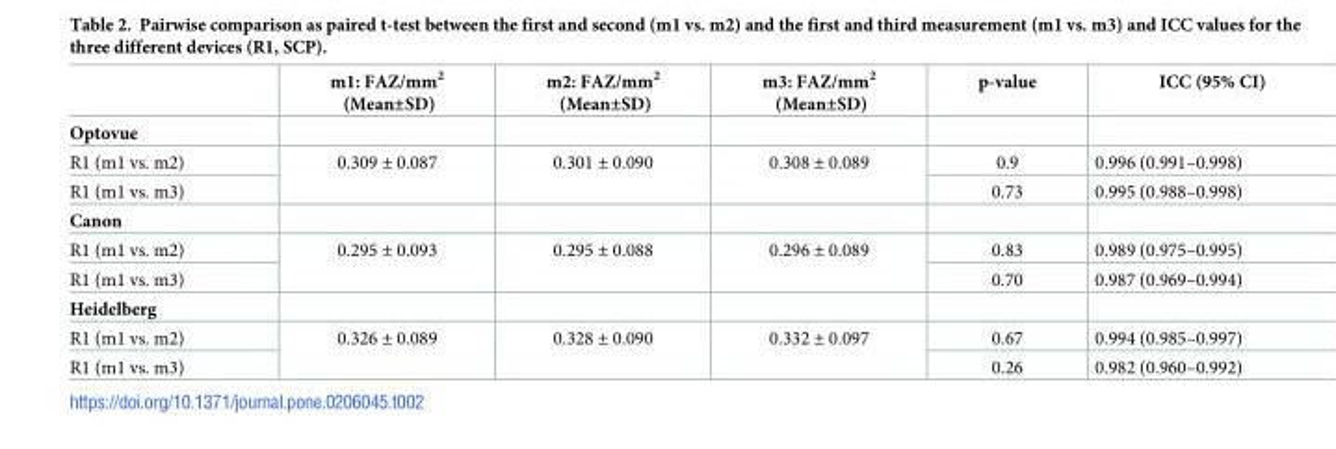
<table><thead><tr><td></td><td>m1: FAZ/mm<sup>2</sup> (Mean±SD)</td><td>m2: FAZ/mm<sup>2</sup> (Mean±SD)</td><td>m3: FAZ/mm<sup>2</sup> (Mean±SD)</td><td>p-value</td><td>ICC (95% CI)</td></tr></thead><tbody><tr><td colspan="6">Optovue</td></tr><tr><td>R1 (m1 vs. m2)</td><td rowspan="2">0.309 ± 0.087</td><td rowspan="2">0.301 ± 0.090</td><td rowspan="2">0.308 ± 0.089</td><td>0.9</td><td>0.996 (0.991–0.998)</td></tr><tr><td>R1 (m1 vs. m3)</td><td>0.73</td><td>0.995 (0.988–0.998)</td></tr><tr><td colspan="6">Canon</td></tr><tr><td>R1 (m1 vs. m2)</td><td rowspan="2">0.295 ± 0.093</td><td rowspan="2">0.295 ± 0.088</td><td rowspan="2">0.296 ± 0.089</td><td>0.83</td><td>0.989 (0.975–0.995)</td></tr><tr><td>R1 (m1 vs. m3)</td><td>0.70</td><td>0.987 (0.969–0.994)</td></tr><tr><td colspan="6">Heidelberg</td></tr><tr><td>R1 (m1 vs. m2)</td><td rowspan="2">0.326 ± 0.089</td><td rowspan="2">0.328 ± 0.090</td><td rowspan="2">0.332 ± 0.097</td><td>0.67</td><td>0.994 (0.985–0.997)</td></tr><tr><td>R1 (m1 vs. m3)</td><td>0.26</td><td>0.982 (0.960–0.992)</td></tr></tbody></table>